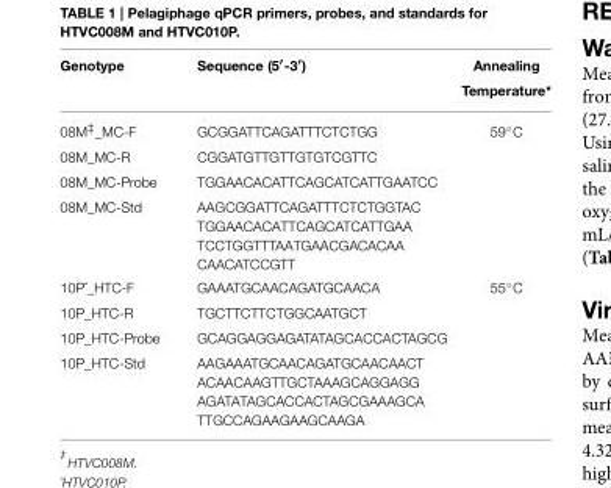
<table><thead><tr><td>Genotype</td><td>Sequence (5′-3′)</td><td>Annealing Temperature*</td></tr></thead><tbody><tr><td>08M<sup>‡</sup>_MC-F</td><td>GCGGATTCAGATTTCTCTGG</td><td>59◦C</td></tr><tr><td>08M_MC-R</td><td>CGGATGTTGTTGTGTCGTTC</td><td></td></tr><tr><td>08M_MC-Probe</td><td>TGGAACACATTCAGCATCATTGAATCC</td><td></td></tr><tr><td>08M_MC-Std</td><td>AAGCGGATTCAGATTTCTCTGGTAC TGGAACACATTCAGCATCATTGAA TCCTGGTTTAATGAACGACACAA CAACATCCGTT</td><td></td></tr><tr><td>10Pˆ_HTC-F</td><td>GAAATGCAACAGATGCAACA</td><td>55◦C</td></tr><tr><td>10P_HTC-R</td><td>TGCTTCTTCTGGCAATGCT</td><td></td></tr><tr><td>10P_HTC-Probe</td><td>GCAGGAGGAGATATAGCACCACTAGCG</td><td></td></tr><tr><td>10P_HTC-Std</td><td>AAGAAATGCAACAGATGCAACAACT ACAACAAGTTGCTAAAGCAGGAGG AGATATAGCACCACTAGCGAAAGCA TTGCCAGAAGAAGCAAGA</td><td></td></tr></tbody></table>